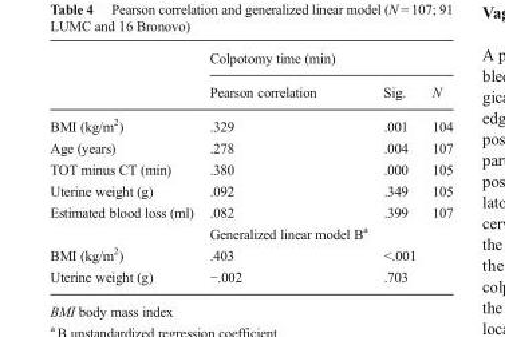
<table><thead><tr><td rowspan="2"></td><td colspan="3">Colpotomy time (min)</td></tr><tr><td>Pearson correlation</td><td>Sig.</td><td>N</td></tr></thead><tbody><tr><td>BMI (kg/m<sup>2</sup>)</td><td>.329</td><td>.001</td><td>104</td></tr><tr><td>Age (years)</td><td>.278</td><td>.004</td><td>107</td></tr><tr><td>TOT minus CT (min)</td><td>.380</td><td>.000</td><td>105</td></tr><tr><td>Uterine weight (g)</td><td>.092</td><td>.349</td><td>105</td></tr><tr><td rowspan="2">Estimated blood loss (ml)</td><td>.082</td><td>.399</td><td>107</td></tr><tr><td>Generalized linear model B<sup>a</sup></td><td></td><td></td></tr><tr><td>BMI (kg/m<sup>2</sup>)</td><td>.403</td><td>&lt;.001</td><td></td></tr><tr><td>Uterine weight (g)</td><td>−.002</td><td>.703</td><td></td></tr></tbody></table>